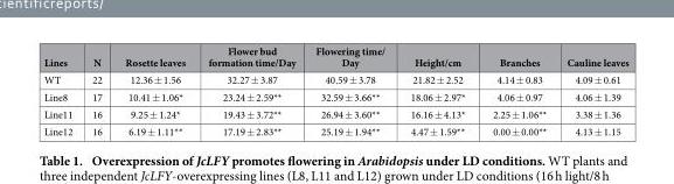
<table><thead><tr><td>Lines</td><td>N</td><td>Rosette leaves</td><td>Flower bud formation time/Day</td><td>Flowering time/ Day</td><td>Height/cm</td><td>Branches</td><td>Cauline leaves</td></tr></thead><tbody><tr><td>WT</td><td>22</td><td>12.36 ± 1.56</td><td>32.27 ± 3.87</td><td>40.59 ± 3.78</td><td>21.82 ± 2.52</td><td>4.14 ± 0.83</td><td>4.09 ± 0.61</td></tr><tr><td>Line8</td><td>17</td><td>10.41 ± 1.06*</td><td>23.24 ± 2.59**</td><td>32.59 ± 3.66**</td><td>18.06 ± 2.97*</td><td>4.06 ± 0.97</td><td>4.06 ± 1.39</td></tr><tr><td>Line11</td><td>16</td><td>9.25 ± 1.24*</td><td>19.43 ± 3.72**</td><td>26.94 ± 3.60**</td><td>16.16 ± 4.13*</td><td>2.25 ± 1.06**</td><td>3.38 ± 1.36</td></tr><tr><td>Line12</td><td>16</td><td>6.19 ± 1.11**</td><td>17.19 ± 2.83**</td><td>25.19 ± 1.94**</td><td>4.47 ± 1.59**</td><td>0.00 ± 0.00**</td><td>4.13 ± 1.15</td></tr></tbody></table>